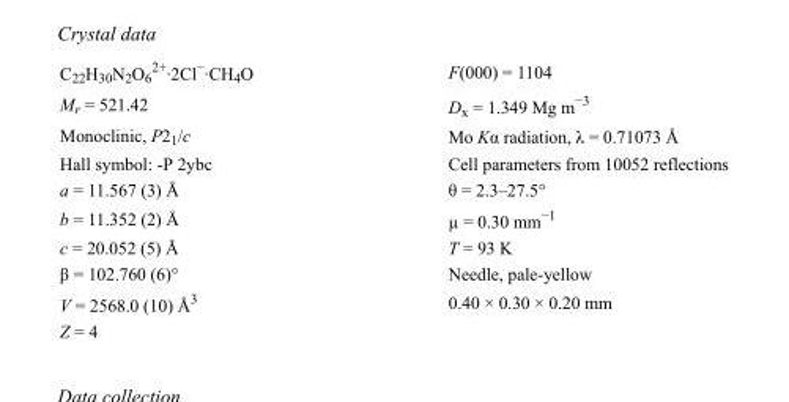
<table><tbody><tr><td>C<sub>22</sub>H<sub>30</sub>N<sub>2</sub>O<sub>6</sub> <sup>2+</sup>·2Cl<sup>−</sup>·CH<sub>4</sub>O</td><td>F(000) = 1104</td></tr><tr><td>M<sub>r</sub> = 521.42</td><td>D<sub>x</sub> = 1.349 Mg m<sup>−3</sup></td></tr><tr><td>Monoclinic, P2<sub>1</sub>/c</td><td>Mo Kα radiation, λ = 0.71073 Å</td></tr><tr><td>Hall symbol: -P 2ybc</td><td>Cell parameters from 10052 reflections</td></tr><tr><td>a = 11.567 (3) Å</td><td>θ = 2.3–27.5°</td></tr><tr><td>b = 11.352 (2) Å</td><td>µ = 0.30 mm<sup>−1</sup></td></tr><tr><td>c = 20.052 (5) Å</td><td>T = 93 K</td></tr><tr><td>β = 102.760 (6)°</td><td>Needle, pale-yellow</td></tr><tr><td>V = 2568.0 (10) Å<sup>3</sup></td><td>0.40 × 0.30 × 0.20 mm</td></tr><tr><td>Z = 4</td><td></td></tr></tbody></table>